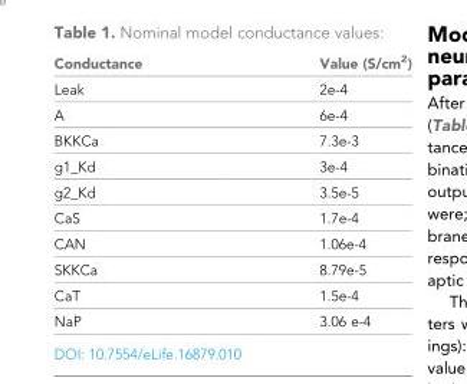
<table><thead><tr><td>Conductance</td><td>Value (S/cm<sup>2</sup>)</td></tr></thead><tbody><tr><td>Leak</td><td>2e-4</td></tr><tr><td>A</td><td>6e-4</td></tr><tr><td>BKKCa</td><td>7.3e-3</td></tr><tr><td>g1_Kd</td><td>3e-4</td></tr><tr><td>g2_Kd</td><td>3.5e-5</td></tr><tr><td>CaS</td><td>1.7e-4</td></tr><tr><td>CAN</td><td>1.06e-4</td></tr><tr><td>SKKCa</td><td>8.79e-5</td></tr><tr><td>CaT</td><td>1.5e-4</td></tr><tr><td>NaP</td><td>3.06 e-4</td></tr></tbody></table>